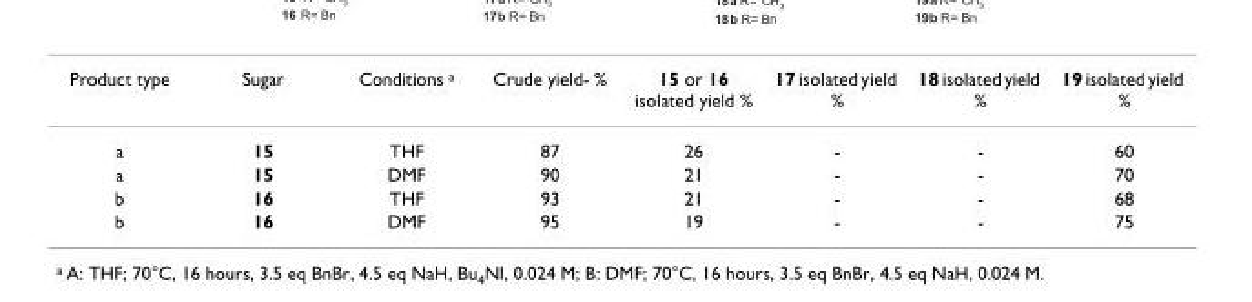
<table><tbody><tr><td>Product type</td><td>Sugar</td><td>Conditions <sup>a</sup></td><td>Crude yield- %</td><td>15 or 16 isolated yield %</td><td>17 isolated yield %</td><td>18 isolated yield %</td><td>19 isolated yield %</td></tr><tr><td>a</td><td>15</td><td>THF</td><td>87</td><td>26</td><td>-</td><td>-</td><td>60</td></tr><tr><td>a</td><td>15</td><td>DMF</td><td>90</td><td>21</td><td>-</td><td>-</td><td>70</td></tr><tr><td>b</td><td>16</td><td>THF</td><td>93</td><td>21</td><td>-</td><td>-</td><td>68</td></tr><tr><td>b</td><td>16</td><td>DMF</td><td>95</td><td>19</td><td>-</td><td>-</td><td>75</td></tr></tbody></table>